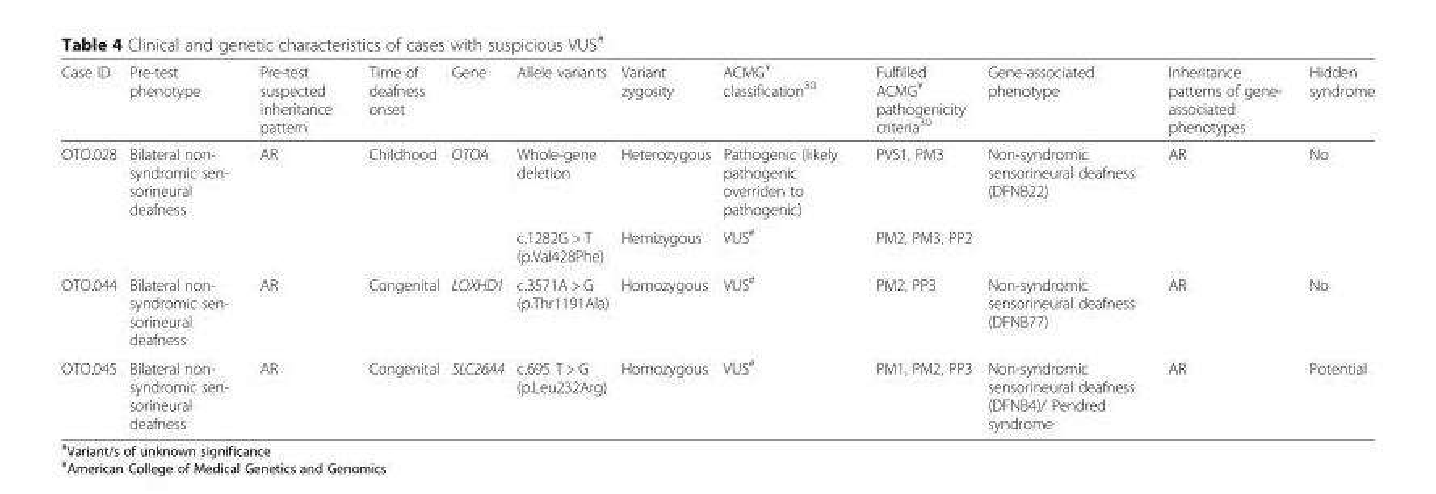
<table><thead><tr><td>Case ID</td><td>Pre-test phenotype</td><td>Pre-test suspected inheritance pattern</td><td>Time of deafness onset</td><td>Gene</td><td>Allele variants</td><td>Variant zygosity</td><td>ACMG<sup>¥</sup> classification<sup>30</sup></td><td>Fulfilled ACMG<sup>¥</sup> pathogenicity criteria<sup>30</sup></td><td>Gene-associated phenotype</td><td>Inheritance patterns of gene- associated phenotypes</td><td>Hidden syndrome</td></tr></thead><tbody><tr><td rowspan="2">OTO.028</td><td rowspan="2">Bilateral non- syndromic sen- sorineural deafness</td><td rowspan="2">AR</td><td rowspan="2">Childhood</td><td rowspan="2">OTOA</td><td>Whole-gene deletion</td><td>Heterozygous</td><td>Pathogenic (likely pathogenic overriden to pathogenic)</td><td>PVS1, PM3</td><td rowspan="2">Non-syndromic sensorineural deafness (DFNB22)</td><td rowspan="2">AR</td><td rowspan="2">No</td></tr><tr><td>c.1282G &gt; T (p.Val428Phe)</td><td>Hemizygous</td><td>VUS<sup>#</sup></td><td>PM2, PM3, PP2</td></tr><tr><td>OTO.044</td><td>Bilateral non- syndromic sen- sorineural deafness</td><td>AR</td><td>Congenital</td><td>LOXHD1</td><td>c.3571A &gt; G (p.Thr1191Ala)</td><td>Homozygous</td><td>VUS<sup>#</sup></td><td>PM2, PP3</td><td>Non-syndromic sensorineural deafness (DFNB77)</td><td>AR</td><td>No</td></tr><tr><td>OTO.045</td><td>Bilateral non- syndromic sen- sorineural deafness</td><td>AR</td><td>Congenital</td><td>SLC26A4</td><td>c.695 T &gt; G (p.Leu232Arg)</td><td>Homozygous</td><td>VUS<sup>#</sup></td><td>PM1, PM2, PP3</td><td>Non-syndromic sensorineural deafness (DFNB4)/ Pendred syndrome</td><td>AR</td><td>Potential</td></tr></tbody></table>